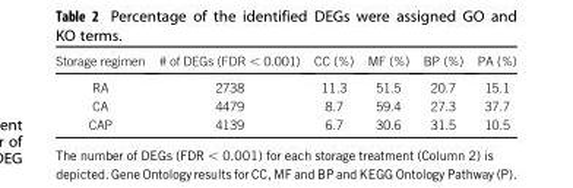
<table><thead><tr><td>Storage regimen</td><td># of DEGs (FDR &lt; 0.001)</td><td>CC (%)</td><td>MF (%)</td><td>BP (%)</td><td>PA (%)</td></tr></thead><tbody><tr><td>RA</td><td>2738</td><td>11.3</td><td>51.5</td><td>20.7</td><td>15.1</td></tr><tr><td>CA</td><td>4479</td><td>8.7</td><td>59.4</td><td>27.3</td><td>37.7</td></tr><tr><td>CAP</td><td>4139</td><td>6.7</td><td>30.6</td><td>31.5</td><td>10.5</td></tr></tbody></table>